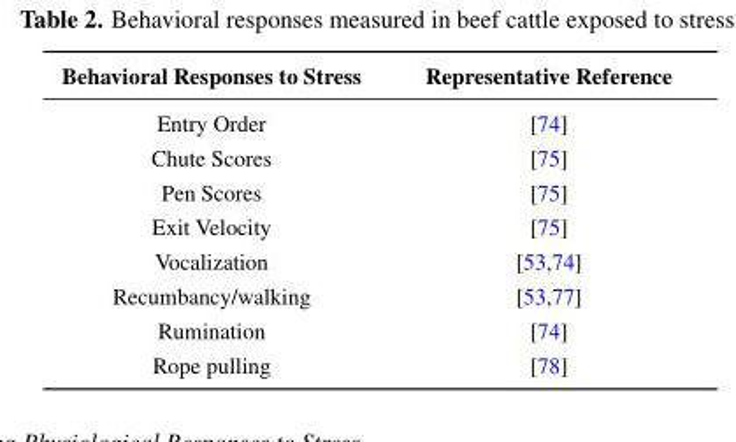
<table><thead><tr><td>Behavioral Responses to Stress</td><td>Representative Reference</td></tr></thead><tbody><tr><td>Entry Order</td><td>[74]</td></tr><tr><td>Chute Scores</td><td>[75]</td></tr><tr><td>Pen Scores</td><td>[75]</td></tr><tr><td>Exit Velocity</td><td>[75]</td></tr><tr><td>Vocalization</td><td>[53,74]</td></tr><tr><td>Recumbancy/walking</td><td>[53,77]</td></tr><tr><td>Rumination</td><td>[74]</td></tr><tr><td>Rope pulling</td><td>[78]</td></tr></tbody></table>